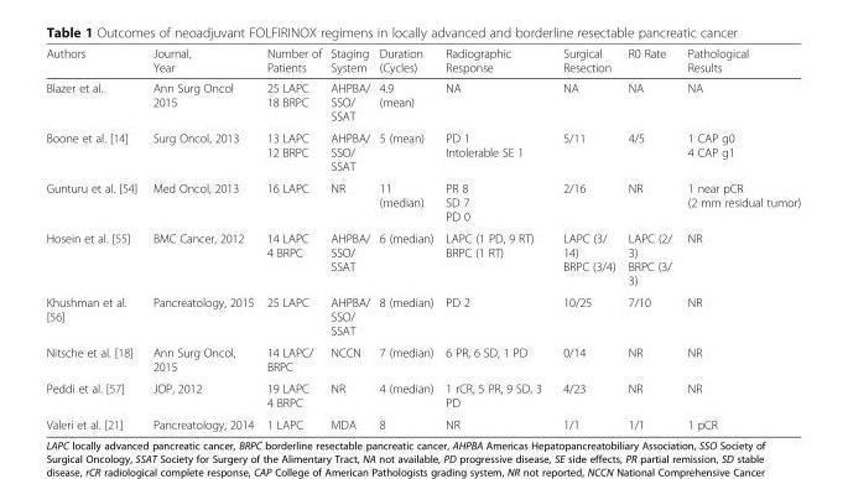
<table><thead><tr><td>Authors</td><td>Journal, Year</td><td>Number of Patients</td><td>Staging System</td><td>Duration (Cycles)</td><td>Radiographic Response</td><td>Surgical Resection</td><td>R0 Rate</td><td>Pathological Results</td></tr></thead><tbody><tr><td>Blazer et al.</td><td>Ann Surg Oncol 2015</td><td>25 LAPC 18 BRPC</td><td>AHPBA/ SSO/ SSAT</td><td>4.9 (mean)</td><td>NA</td><td>NA</td><td>NA</td><td>NA</td></tr><tr><td>Boone et al. [14]</td><td>Surg Oncol, 2013</td><td>13 LAPC 12 BRPC</td><td>AHPBA/ SSO/ SSAT</td><td>5 (mean)</td><td>PD 1 Intolerable SE 1</td><td>5/11</td><td>4/5</td><td>1 CAP g0 4 CAP g1</td></tr><tr><td>Gunturu et al. [54]</td><td>Med Oncol, 2013</td><td>16 LAPC</td><td>NR</td><td>11 (median)</td><td>PR 8 SD 7 PD 0</td><td>2/16</td><td>NR</td><td>1 near pCR (2 mm residual tumor)</td></tr><tr><td>Hosein et al. [55]</td><td>BMC Cancer, 2012</td><td>14 LAPC 4 BRPC</td><td>AHPBA/ SSO/ SSAT</td><td>6 (median)</td><td>LAPC (1 PD, 9 RT) BRPC (1 RT)</td><td>LAPC (3/ 14) BRPC (3/4)</td><td>LAPC (2/ 3) BRPC (3/ 3)</td><td>NR</td></tr><tr><td>Khushman et al. [56]</td><td>Pancreatology, 2015</td><td>25 LAPC</td><td>AHPBA/ SSO/ SSAT</td><td>8 (median)</td><td>PD 2</td><td>10/25</td><td>7/10</td><td>NR</td></tr><tr><td>Nitsche et al. [18]</td><td>Ann Surg Oncol, 2015</td><td>14 LAPC/ BRPC</td><td>NCCN</td><td>7 (median)</td><td>6 PR, 6 SD, 1 PD</td><td>0/14</td><td>NR</td><td>NR</td></tr><tr><td>Peddi et al. [57]</td><td>JOP, 2012</td><td>19 LAPC 4 BRPC</td><td>NR</td><td>4 (median)</td><td>1 rCR, 5 PR, 9 SD, 3 PD</td><td>4/23</td><td>NR</td><td>NR</td></tr><tr><td>Valeri et al. [21]</td><td>Pancreatology, 2014</td><td>1 LAPC</td><td>MDA</td><td>8</td><td>NR</td><td>1/1</td><td>1/1</td><td>1 pCR</td></tr></tbody></table>